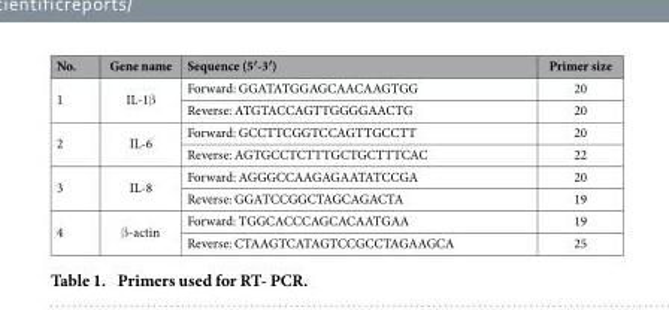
<table><thead><tr><td>No.</td><td>Gene name</td><td>Sequence (5′-3′)</td><td>Primer size</td></tr></thead><tbody><tr><td rowspan="2">1</td><td rowspan="2">IL-1β</td><td>Forward: GGATATGGAGCAACAAGTGG</td><td>20</td></tr><tr><td>Reverse: ATGTACCAGTTGGGGAACTG</td><td>20</td></tr><tr><td rowspan="2">2</td><td rowspan="2">IL-6</td><td>Forward: GCCTTCGGTCCAGTTGCCTT</td><td>20</td></tr><tr><td>Reverse: AGTGCCTCTTTGCTGCTTTCAC</td><td>22</td></tr><tr><td rowspan="2">3</td><td rowspan="2">IL-8</td><td>Forward: AGGGCCAAGAGAATATCCGA</td><td>20</td></tr><tr><td>Reverse: GGATCCGGCTAGCAGACTA</td><td>19</td></tr><tr><td rowspan="2">4</td><td rowspan="2">β -actin</td><td>Forward: TGGCACCCAGCACAATGAA</td><td>19</td></tr><tr><td>Reverse: CTAAGTCATAGTCCGCCTAGAAGCA</td><td>25</td></tr></tbody></table>